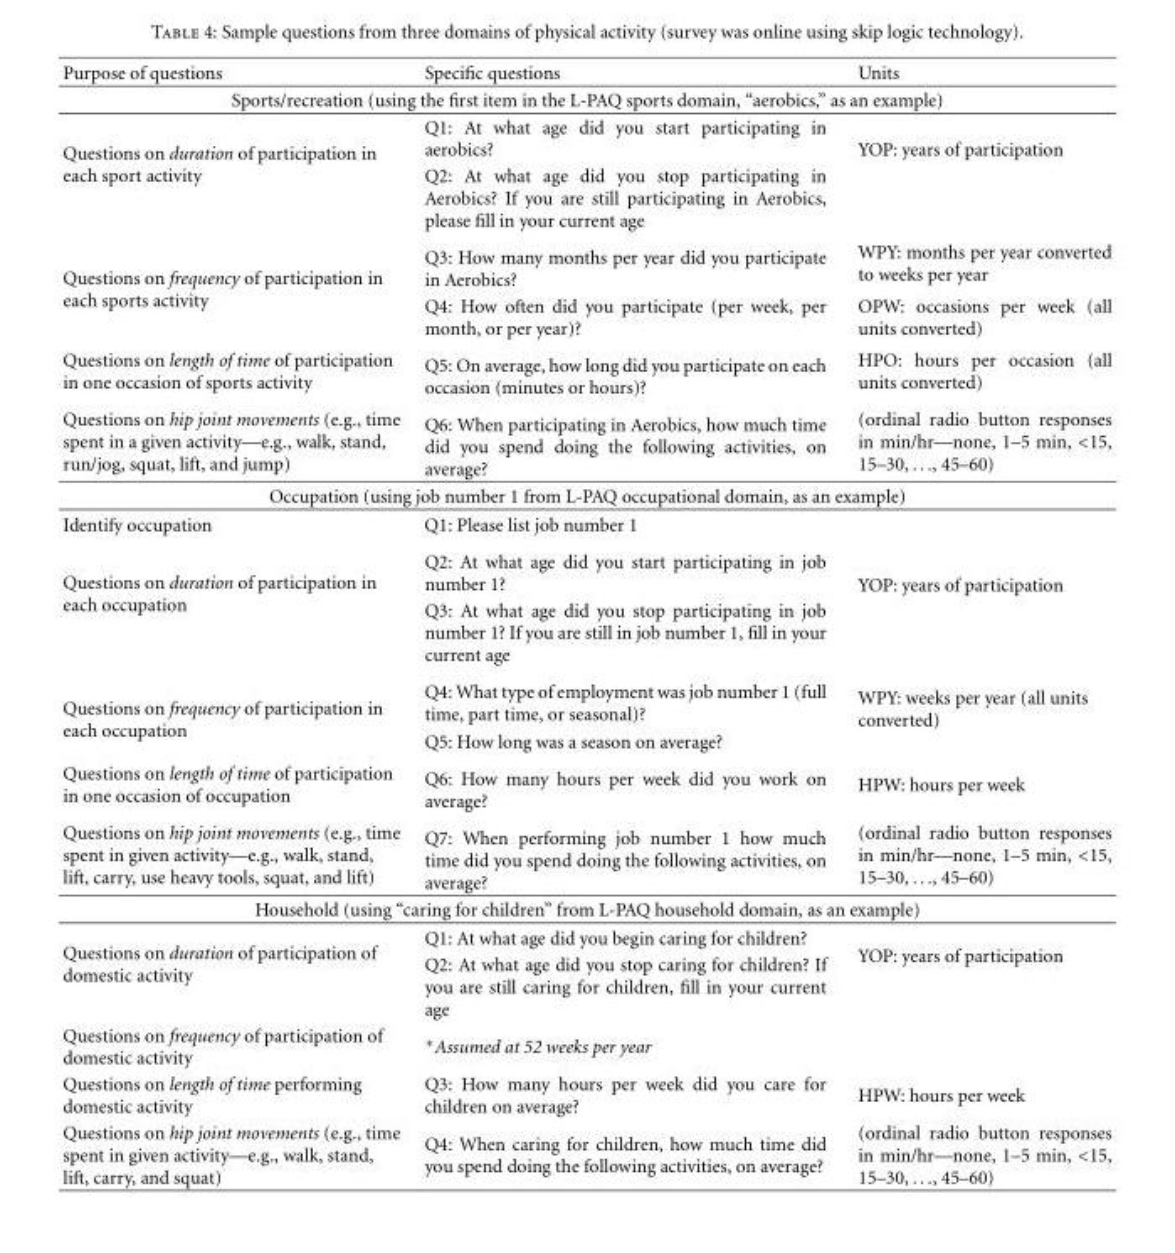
<table><thead><tr><td>Purpose of questions</td><td>Specific questions</td><td>Units</td></tr></thead><tbody><tr><td colspan="3">Sports/recreation (using the first item in the L-PAQ sports domain, “aerobics,” as an example)</td></tr><tr><td rowspan="2">Questions on duration of participation in each sport activity</td><td>Q1: At what age did you start participating in aerobics?</td><td rowspan="2">YOP: years of participation</td></tr><tr><td>Q2: At what age did you stop participating in Aerobics? If you are still participating in Aerobics, please fill in your current age</td></tr><tr><td rowspan="2">Questions on frequency of participation in each sports activity</td><td>Q3: How many months per year did you participate in Aerobics?</td><td>WPY: months per year converted to weeks per year</td></tr><tr><td>Q4: How often did you participate (per week, per month, or per year)?</td><td>OPW: occasions per week (all units converted)</td></tr><tr><td>Questions on length of time of participation in one occasion of sports activity</td><td>Q5: On average, how long did you participate on each occasion (minutes or hours)?</td><td>HPO: hours per occasion (all units converted)</td></tr><tr><td>Questions on hip joint movements (e.g., time spent in a given activity—e.g., walk, stand, run/jog, squat, lift, and jump)</td><td>Q6: When participating in Aerobics, how much time did you spend doing the following activities, on average?</td><td>(ordinal radio button responses in min/hr—none, 1–5 min, &lt;15, 15–30, ..., 45–60)</td></tr><tr><td colspan="3">Occupation (using job number 1 from L-PAQ occupational domain, as an example)</td></tr><tr><td>Identify occupation</td><td>Q1: Please list job number 1</td><td></td></tr><tr><td rowspan="2">Questions on duration of participation in each occupation</td><td>Q2: At what age did you start participating in job number 1?</td><td rowspan="2">YOP: years of participation</td></tr><tr><td>Q3: At what age did you stop participating in job number 1? If you are still in job number 1, fill in your current age</td></tr><tr><td rowspan="2">Questions on frequency of participation in each occupation</td><td>Q4: What type of employment was job number 1 (full time, part time, or seasonal)?</td><td rowspan="2">WPY: weeks per year (all units converted)</td></tr><tr><td>Q5: How long was a season on average?</td></tr><tr><td>Questions on length of time of participation in one occasion of occupation</td><td>Q6: How many hours per week did you work on average?</td><td>HPW: hours per week</td></tr><tr><td>Questions on hip joint movements (e.g., time spent in given activity—e.g., walk, stand, lift, carry, use heavy tools, squat, and lift)</td><td>Q7: When performing job number 1 how much time did you spend doing the following activities, on average?</td><td>(ordinal radio button responses in min/hr—none, 1–5 min, &lt;15, 15–30, ..., 45–60)</td></tr><tr><td colspan="3">Household (using “caring for children” from L-PAQ household domain, as an example)</td></tr><tr><td rowspan="2">Questions on duration of participation of domestic activity</td><td>Q1: At what age did you begin caring for children?</td><td rowspan="2">YOP: years of participation</td></tr><tr><td>Q2: At what age did you stop caring for children? If you are still caring for children, fill in your current age</td></tr><tr><td>Questions on frequency of participation of domestic activity</td><td>∗Assumed at 52 weeks per year</td><td></td></tr><tr><td>Questions on length of time performing domestic activity</td><td>Q3: How many hours per week did you care for children on average?</td><td>HPW: hours per week</td></tr><tr><td>Questions on hip joint movements (e.g., time spent in given activity—e.g., walk, stand, lift, carry, and squat)</td><td>Q4: When caring for children, how much time did you spend doing the following activities, on average?</td><td>(ordinal radio button responses in min/hr—none, 1–5 min, &lt;15, 15–30, ..., 45–60)</td></tr></tbody></table>